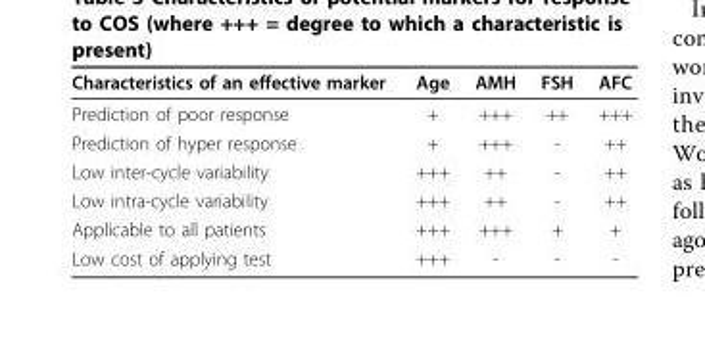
<table><thead><tr><td>Characteristics of an effective marker</td><td>Age</td><td>AMH</td><td>FSH</td><td>AFC</td></tr></thead><tbody><tr><td>Prediction of poor response</td><td>+</td><td>+++</td><td>++</td><td>+++</td></tr><tr><td>Prediction of hyper response</td><td>+</td><td>+++</td><td>-</td><td>++</td></tr><tr><td>Low inter-cycle variability</td><td>+++</td><td>++</td><td>-</td><td>++</td></tr><tr><td>Low intra-cycle variability</td><td>+++</td><td>++</td><td>-</td><td>++</td></tr><tr><td>Applicable to all patients</td><td>+++</td><td>+++</td><td>+</td><td>+</td></tr><tr><td>Low cost of applying test</td><td>+++</td><td>-</td><td>-</td><td>-</td></tr></tbody></table>